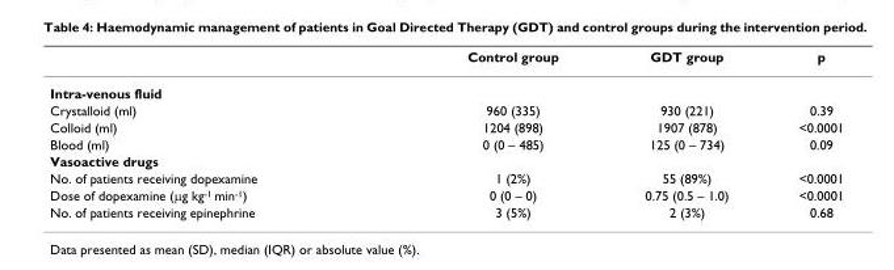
<table><thead><tr><td></td><td>Control group</td><td>GDT group</td><td>p</td></tr></thead><tbody><tr><td colspan="4">Intra-venous fluid</td></tr><tr><td>Crystalloid (ml)</td><td>960 (335)</td><td>930 (221)</td><td>0.39</td></tr><tr><td>Colloid (ml)</td><td>1204 (898)</td><td>1907 (878)</td><td>&lt;0.0001</td></tr><tr><td>Blood (ml)</td><td>0 (0 – 485)</td><td>125 (0 – 734)</td><td>0.09</td></tr><tr><td colspan="4">Vasoactive drugs</td></tr><tr><td>No. of patients receiving dopexamine</td><td>1 (2%)</td><td>55 (89%)</td><td>&lt;0.0001</td></tr><tr><td>Dose of dopexamine (µg kg-1 min-1)</td><td>0 (0 – 0)</td><td>0.75 (0.5 – 1.0)</td><td>&lt;0.0001</td></tr><tr><td>No. of patients receiving epinephrine</td><td>3 (5%)</td><td>2 (3%)</td><td>0.68</td></tr></tbody></table>